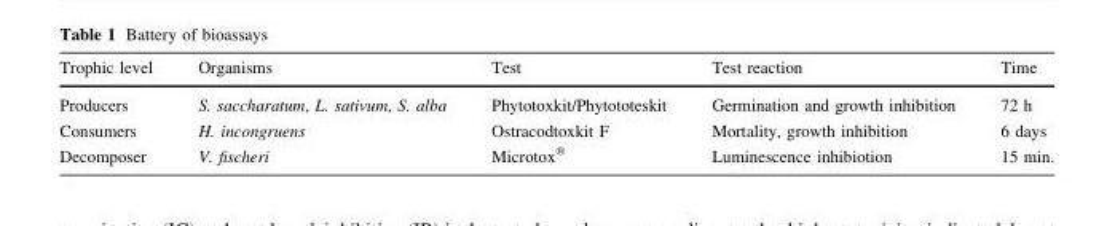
<table><thead><tr><td>Trophic level</td><td>Organisms</td><td>Test</td><td>Test reaction</td><td>Time</td></tr></thead><tbody><tr><td>Producers</td><td>S. saccharatum, L. sativum, S. alba</td><td>Phytotoxkit/Phytototeskit</td><td>Germination and growth inhibition</td><td>72 h</td></tr><tr><td>Consumers</td><td>H. incongruens</td><td>Ostracodtoxkit F</td><td>Mortality, growth inhibition</td><td>6 days</td></tr><tr><td>Decomposer</td><td>V. fischeri</td><td>Microtox<sup>®</sup></td><td>Luminescence inhibiotion</td><td>15 min.</td></tr></tbody></table>